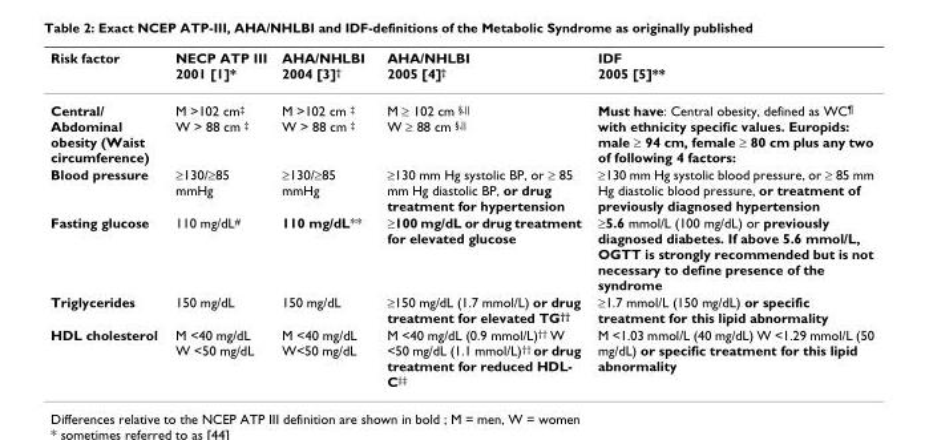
<table><thead><tr><td>Risk factor</td><td>NECP ATP III 2001 [1]*</td><td>AHA/NHLBI 2004 [3]<sup>†</sup></td><td>AHA/NHLBI 2005 [4]<sup>†</sup></td><td>IDF 2005 [5]**</td></tr></thead><tbody><tr><td>Central/ Abdominal obesity (Waist circumference)</td><td>M &gt;102 cm<sup>‡</sup> W &gt; 88 cm <sup>‡</sup></td><td>M &gt;102 cm <sup>‡</sup> W &gt; 88 cm <sup>‡</sup></td><td>M ≥ 102 cm <sup>§,||</sup> W ≥ 88 cm <sup>§,||</sup></td><td>Must have: Central obesity, defined as WC<sup>¶</sup> with ethnicity specific values. Europids: male ≥ 94 cm, female ≥ 80 cm plus any two of following 4 factors:</td></tr><tr><td>Blood pressure</td><td>≥130/≥85 mmHg</td><td>≥130/≥85 mmHg</td><td>≥130 mm Hg systolic BP, or ≥ 85 mm Hg diastolic BP, or drug treatment for hypertension</td><td>≥130 mm Hg systolic blood pressure, or ≥ 85 mm Hg diastolic blood pressure, or treatment of previously diagnosed hypertension</td></tr><tr><td>Fasting glucose</td><td>110 mg/dL<sup>#</sup></td><td>110 mg/dL**</td><td>≥100 mg/dL or drug treatment for elevated glucose</td><td>≥5.6 mmol/L (100 mg/dL) or previously diagnosed diabetes. If above 5.6 mmol/L, OGTT is strongly recommended but is not necessary to define presence of the syndrome</td></tr><tr><td>Triglycerides</td><td>150 mg/dL</td><td>150 mg/dL</td><td>≥150 mg/dL (1.7 mmol/L) or drug treatment for elevated TG<sup>††</sup></td><td>≥1.7 mmol/L (150 mg/dL) or specific treatment for this lipid abnormality</td></tr><tr><td>HDL cholesterol</td><td>M &lt;40 mg/dL W &lt;50 mg/dL</td><td>M &lt;40 mg/dL W&lt;50 mg/dL</td><td>M &lt;40 mg/dL (0.9 mmol/L)<sup>††</sup> W &lt;50 mg/dL (1.1 mmol/L)<sup>††</sup> or drug treatment for reduced HDL- C<sup>‡‡</sup></td><td>M &lt;1.03 mmol/L (40 mg/dL) W &lt;1.29 mmol/L (50 mg/dL) or specific treatment for this lipid abnormality</td></tr></tbody></table>